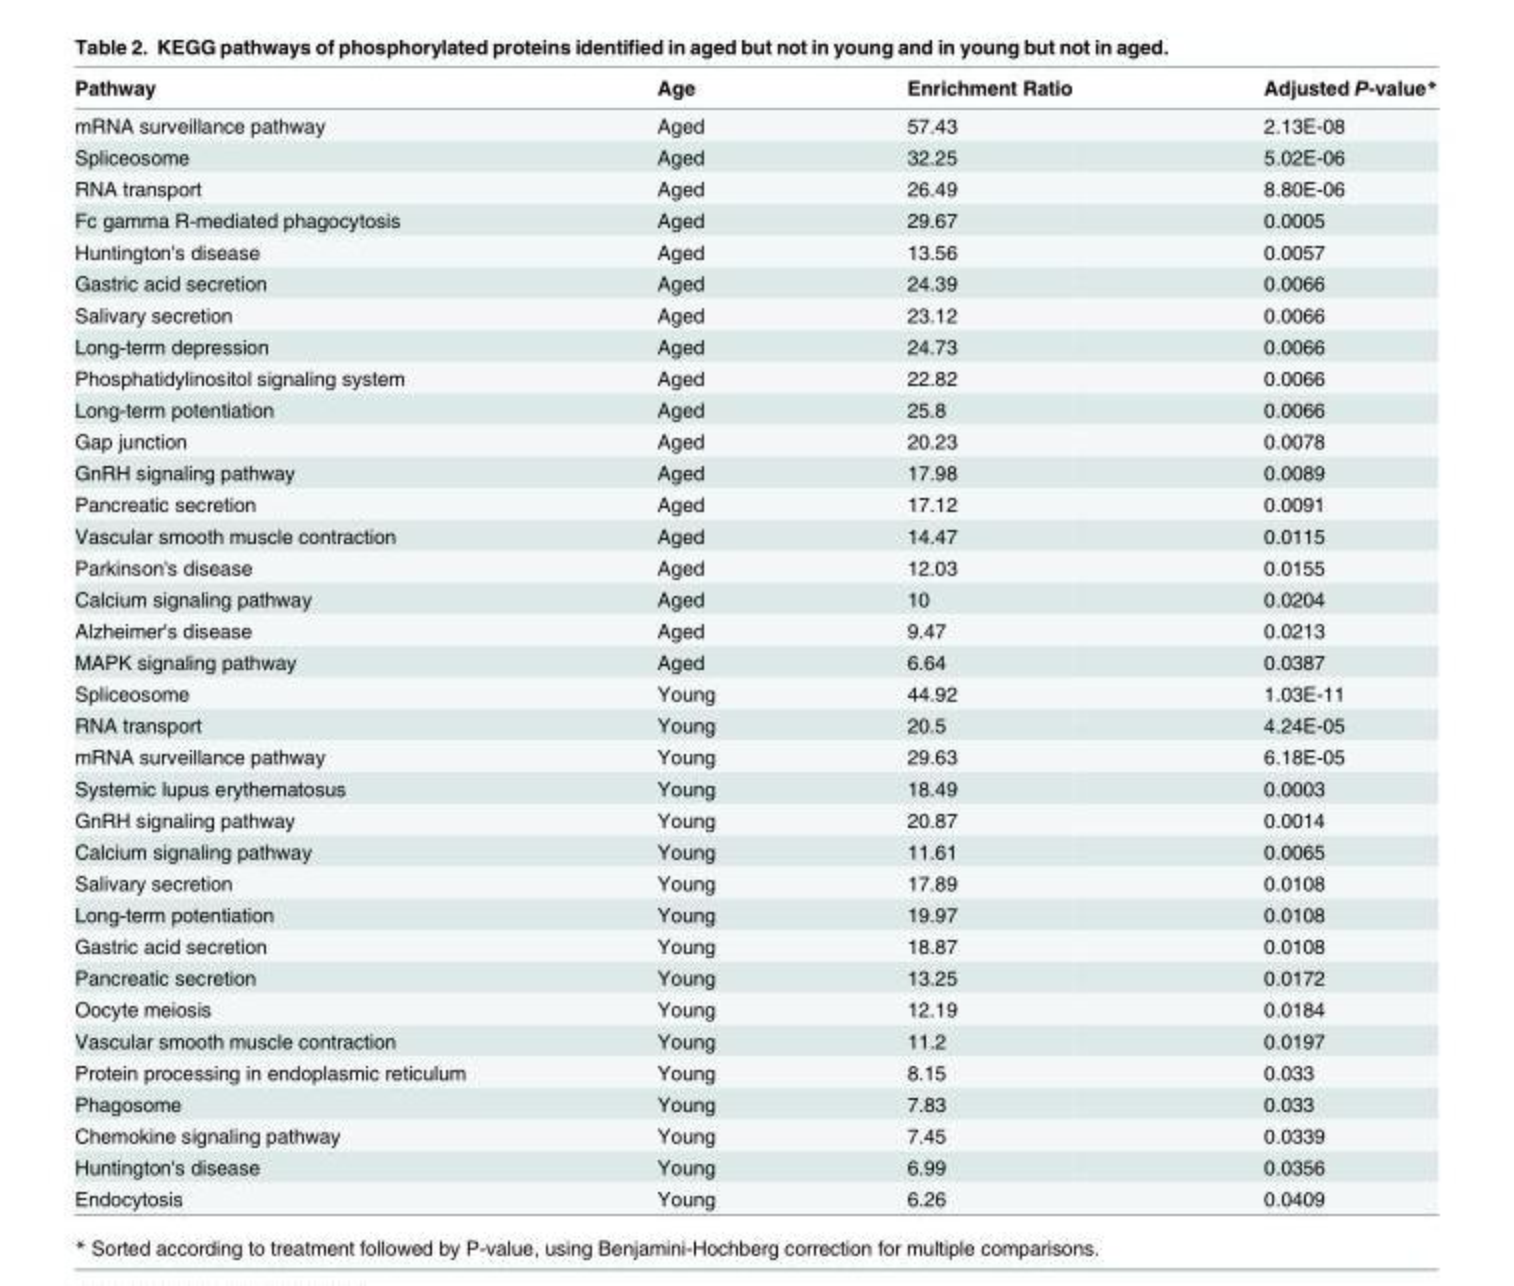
<table><thead><tr><td>Pathway</td><td>Age</td><td>Enrichment Ratio</td><td>Adjusted P-value*</td></tr></thead><tbody><tr><td>mRNA surveillance pathway</td><td>Aged</td><td>57.43</td><td>2.13E-08</td></tr><tr><td>Spliceosome</td><td>Aged</td><td>32.25</td><td>5.02E-06</td></tr><tr><td>RNA transport</td><td>Aged</td><td>26.49</td><td>8.80E-06</td></tr><tr><td>Fc gamma R-mediated phagocytosis</td><td>Aged</td><td>29.67</td><td>0.0005</td></tr><tr><td>Huntington&#x27;s disease</td><td>Aged</td><td>13.56</td><td>0.0057</td></tr><tr><td>Gastric acid secretion</td><td>Aged</td><td>24.39</td><td>0.0066</td></tr><tr><td>Salivary secretion</td><td>Aged</td><td>23.12</td><td>0.0066</td></tr><tr><td>Long-term depression</td><td>Aged</td><td>24.73</td><td>0.0066</td></tr><tr><td>Phosphatidylinositol signaling system</td><td>Aged</td><td>22.82</td><td>0.0066</td></tr><tr><td>Long-term potentiation</td><td>Aged</td><td>25.8</td><td>0.0066</td></tr><tr><td>Gap junction</td><td>Aged</td><td>20.23</td><td>0.0078</td></tr><tr><td>GnRH signaling pathway</td><td>Aged</td><td>17.98</td><td>0.0089</td></tr><tr><td>Pancreatic secretion</td><td>Aged</td><td>17.12</td><td>0.0091</td></tr><tr><td>Vascular smooth muscle contraction</td><td>Aged</td><td>14.47</td><td>0.0115</td></tr><tr><td>Parkinson&#x27;s disease</td><td>Aged</td><td>12.03</td><td>0.0155</td></tr><tr><td>Calcium signaling pathway</td><td>Aged</td><td>10</td><td>0.0204</td></tr><tr><td>Alzheimer&#x27;s disease</td><td>Aged</td><td>9.47</td><td>0.0213</td></tr><tr><td>MAPK signaling pathway</td><td>Aged</td><td>6.64</td><td>0.0387</td></tr><tr><td>Spliceosome</td><td>Young</td><td>44.92</td><td>1.03E-11</td></tr><tr><td>RNA transport</td><td>Young</td><td>20.5</td><td>4.24E-05</td></tr><tr><td>mRNA surveillance pathway</td><td>Young</td><td>29.63</td><td>6.18E-05</td></tr><tr><td>Systemic lupus erythematosus</td><td>Young</td><td>18.49</td><td>0.0003</td></tr><tr><td>GnRH signaling pathway</td><td>Young</td><td>20.87</td><td>0.0014</td></tr><tr><td>Calcium signaling pathway</td><td>Young</td><td>11.61</td><td>0.0065</td></tr><tr><td>Salivary secretion</td><td>Young</td><td>17.89</td><td>0.0108</td></tr><tr><td>Long-term potentiation</td><td>Young</td><td>19.97</td><td>0.0108</td></tr><tr><td>Gastric acid secretion</td><td>Young</td><td>18.87</td><td>0.0108</td></tr><tr><td>Pancreatic secretion</td><td>Young</td><td>13.25</td><td>0.0172</td></tr><tr><td>Oocyte meiosis</td><td>Young</td><td>12.19</td><td>0.0184</td></tr><tr><td>Vascular smooth muscle contraction</td><td>Young</td><td>11.2</td><td>0.0197</td></tr><tr><td>Protein processing in endoplasmic reticulum</td><td>Young</td><td>8.15</td><td>0.033</td></tr><tr><td>Phagosome</td><td>Young</td><td>7.83</td><td>0.033</td></tr><tr><td>Chemokine signaling pathway</td><td>Young</td><td>7.45</td><td>0.0339</td></tr><tr><td>Huntington&#x27;s disease</td><td>Young</td><td>6.99</td><td>0.0356</td></tr><tr><td>Endocytosis</td><td>Young</td><td>6.26</td><td>0.0409</td></tr></tbody></table>